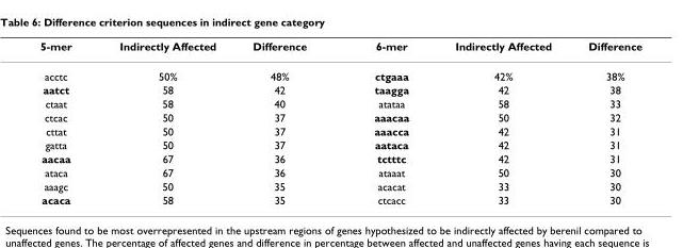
<table><thead><tr><td>5-mer</td><td>Indirectly Affected</td><td>Difference</td><td>6-mer</td><td>Indirectly Affected</td><td>Difference</td></tr></thead><tbody><tr><td>acctc</td><td>50%</td><td>48%</td><td>ctgaaa</td><td>42%</td><td>38%</td></tr><tr><td>aatct</td><td>58</td><td>42</td><td>taagga</td><td>42</td><td>38</td></tr><tr><td>ctaat</td><td>58</td><td>40</td><td>atataa</td><td>58</td><td>33</td></tr><tr><td>ctcac</td><td>50</td><td>37</td><td>aaacaa</td><td>50</td><td>32</td></tr><tr><td>cttat</td><td>50</td><td>37</td><td>aaacca</td><td>42</td><td>31</td></tr><tr><td>gatta</td><td>50</td><td>37</td><td>aataca</td><td>42</td><td>31</td></tr><tr><td>aacaa</td><td>67</td><td>36</td><td>tctttc</td><td>42</td><td>31</td></tr><tr><td>ataca</td><td>67</td><td>36</td><td>ataaat</td><td>50</td><td>30</td></tr><tr><td>aaagc</td><td>50</td><td>35</td><td>acacat</td><td>33</td><td>30</td></tr><tr><td>acaca</td><td>58</td><td>35</td><td>ctcacc</td><td>33</td><td>30</td></tr></tbody></table>